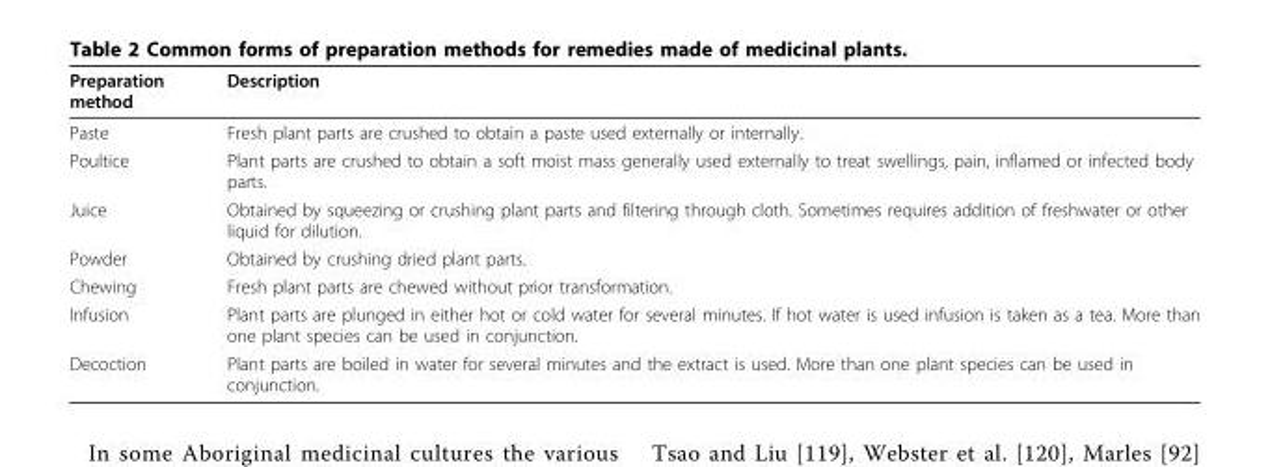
<table><thead><tr><td>Preparation method</td><td>Description</td></tr></thead><tbody><tr><td>Paste</td><td>Fresh plant parts are crushed to obtain a paste used externally or internally.</td></tr><tr><td>Poultice</td><td>Plant parts are crushed to obtain a soft moist mass generally used externally to treat swellings, pain, inflamed or infected body parts.</td></tr><tr><td>Juice</td><td>Obtained by squeezing or crushing plant parts and filtering through cloth. Sometimes requires addition of freshwater or other liquid for dilution.</td></tr><tr><td>Powder</td><td>Obtained by crushing dried plant parts.</td></tr><tr><td>Chewing</td><td>Fresh plant parts are chewed without prior transformation.</td></tr><tr><td>Infusion</td><td>Plant parts are plunged in either hot or cold water for several minutes. If hot water is used infusion is taken as a tea. More than one plant species can be used in conjunction.</td></tr><tr><td>Decoction</td><td>Plant parts are boiled in water for several minutes and the extract is used. More than one plant species can be used in conjunction.</td></tr></tbody></table>